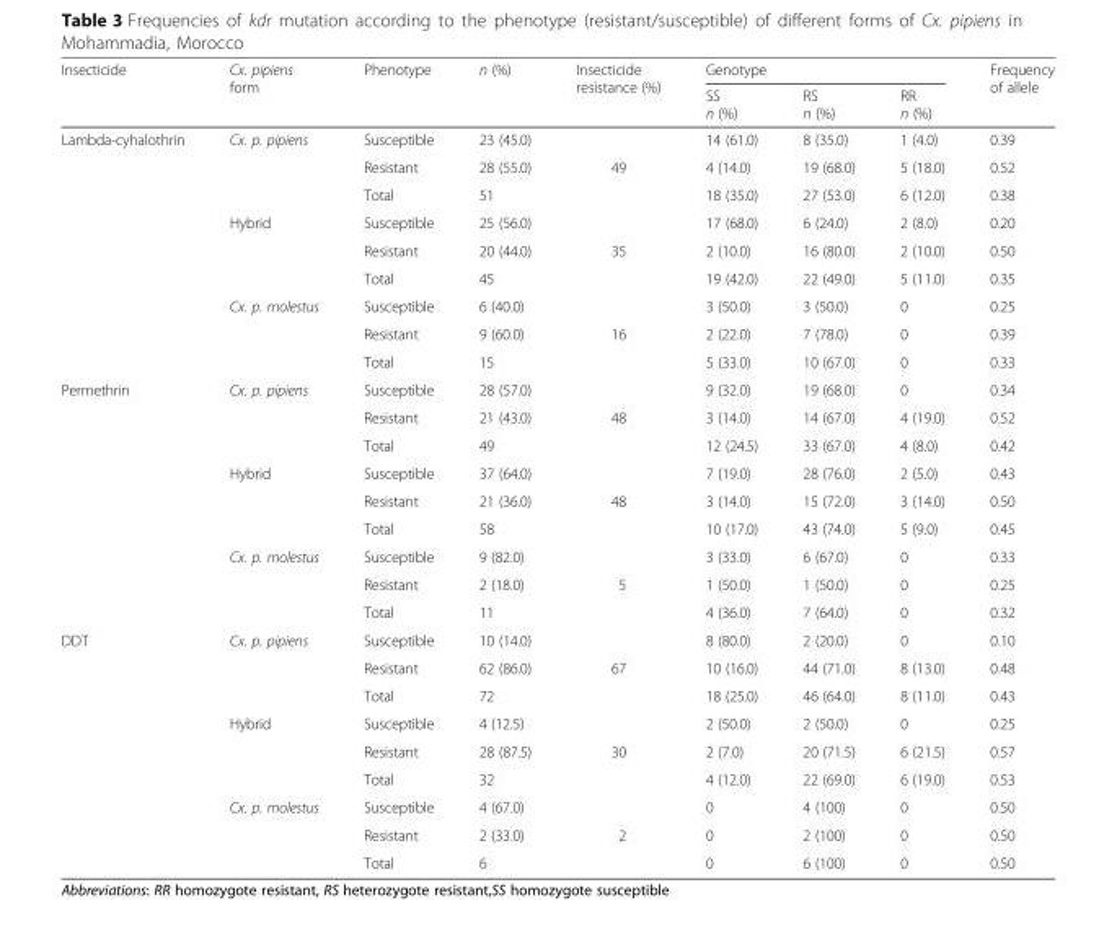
<table><thead><tr><td rowspan="2">Insecticide</td><td rowspan="2">Cx. pipiens form</td><td rowspan="2">Phenotype</td><td rowspan="2">n (%)</td><td rowspan="2">Insecticide resistance (%)</td><td colspan="3">Genotype</td><td rowspan="2">Frequency of allele</td></tr><tr><td>SS n (%)</td><td>RS n (%)</td><td>RR n (%)</td></tr></thead><tbody><tr><td rowspan="9">Lambda-cyhalothrin</td><td rowspan="3">Cx. p. pipiens</td><td>Susceptible</td><td>23 (45.0)</td><td></td><td>14 (61.0)</td><td>8 (35.0)</td><td>1 (4.0)</td><td>0.39</td></tr><tr><td>Resistant</td><td>28 (55.0)</td><td>49</td><td>4 (14.0)</td><td>19 (68.0)</td><td>5 (18.0)</td><td>0.52</td></tr><tr><td>Total</td><td>51</td><td></td><td>18 (35.0)</td><td>27 (53.0)</td><td>6 (12.0)</td><td>0.38</td></tr><tr><td rowspan="3">Hybrid</td><td>Susceptible</td><td>25 (56.0)</td><td></td><td>17 (68.0)</td><td>6 (24.0)</td><td>2 (8.0)</td><td>0.20</td></tr><tr><td>Resistant</td><td>20 (44.0)</td><td>35</td><td>2 (10.0)</td><td>16 (80.0)</td><td>2 (10.0)</td><td>0.50</td></tr><tr><td>Total</td><td>45</td><td></td><td>19 (42.0)</td><td>22 (49.0)</td><td>5 (11.0)</td><td>0.35</td></tr><tr><td rowspan="3">Cx. p. molestus</td><td>Susceptible</td><td>6 (40.0)</td><td></td><td>3 (50.0)</td><td>3 (50.0)</td><td>0</td><td>0.25</td></tr><tr><td>Resistant</td><td>9 (60.0)</td><td>16</td><td>2 (22.0)</td><td>7 (78.0)</td><td>0</td><td>0.39</td></tr><tr><td>Total</td><td>15</td><td></td><td>5 (33.0)</td><td>10 (67.0)</td><td>0</td><td>0.33</td></tr><tr><td rowspan="9">Permethrin</td><td rowspan="3">Cx. p. pipiens</td><td>Susceptible</td><td>28 (57.0)</td><td></td><td>9 (32.0)</td><td>19 (68.0)</td><td>0</td><td>0.34</td></tr><tr><td>Resistant</td><td>21 (43.0)</td><td>48</td><td>3 (14.0)</td><td>14 (67.0)</td><td>4 (19.0)</td><td>0.52</td></tr><tr><td>Total</td><td>49</td><td></td><td>12 (24.5)</td><td>33 (67.0)</td><td>4 (8.0)</td><td>0.42</td></tr><tr><td rowspan="3">Hybrid</td><td>Susceptible</td><td>37 (64.0)</td><td></td><td>7 (19.0)</td><td>28 (76.0)</td><td>2 (5.0)</td><td>0.43</td></tr><tr><td>Resistant</td><td>21 (36.0)</td><td>48</td><td>3 (14.0)</td><td>15 (72.0)</td><td>3 (14.0)</td><td>0.50</td></tr><tr><td>Total</td><td>58</td><td></td><td>10 (17.0)</td><td>43 (74.0)</td><td>5 (9.0)</td><td>0.45</td></tr><tr><td rowspan="3">Cx. p. molestus</td><td>Susceptible</td><td>9 (82.0)</td><td></td><td>3 (33.0)</td><td>6 (67.0)</td><td>0</td><td>0.33</td></tr><tr><td>Resistant</td><td>2 (18.0)</td><td>5</td><td>1 (50.0)</td><td>1 (50.0)</td><td>0</td><td>0.25</td></tr><tr><td>Total</td><td>11</td><td></td><td>4 (36.0)</td><td>7 (64.0)</td><td>0</td><td>0.32</td></tr><tr><td rowspan="9">DDT</td><td rowspan="3">Cx. p. pipiens</td><td>Susceptible</td><td>10 (14.0)</td><td></td><td>8 (80.0)</td><td>2 (20.0)</td><td>0</td><td>0.10</td></tr><tr><td>Resistant</td><td>62 (86.0)</td><td>67</td><td>10 (16.0)</td><td>44 (71.0)</td><td>8 (13.0)</td><td>0.48</td></tr><tr><td>Total</td><td>72</td><td></td><td>18 (25.0)</td><td>46 (64.0)</td><td>8 (11.0)</td><td>0.43</td></tr><tr><td rowspan="3">Hybrid</td><td>Susceptible</td><td>4 (12.5)</td><td></td><td>2 (50.0)</td><td>2 (50.0)</td><td>0</td><td>0.25</td></tr><tr><td>Resistant</td><td>28 (87.5)</td><td>30</td><td>2 (7.0)</td><td>20 (71.5)</td><td>6 (21.5)</td><td>0.57</td></tr><tr><td>Total</td><td>32</td><td></td><td>4 (12.0)</td><td>22 (69.0)</td><td>6 (19.0)</td><td>0.53</td></tr><tr><td rowspan="3">Cx. p. molestus</td><td>Susceptible</td><td>4 (67.0)</td><td></td><td>0</td><td>4 (100)</td><td>0</td><td>0.50</td></tr><tr><td>Resistant</td><td>2 (33.0)</td><td>2</td><td>0</td><td>2 (100)</td><td>0</td><td>0.50</td></tr><tr><td>Total</td><td>6</td><td></td><td>0</td><td>6 (100)</td><td>0</td><td>0.50</td></tr></tbody></table>